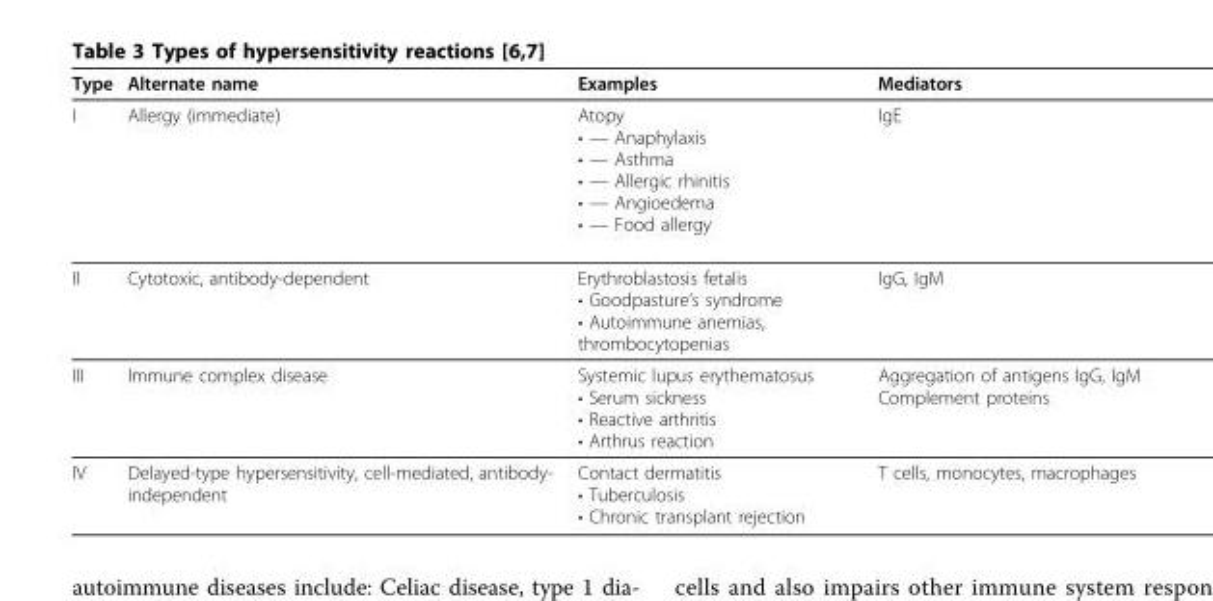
<table><thead><tr><td>Type</td><td>Alternate name</td><td>Examples</td><td>Mediators</td></tr></thead><tbody><tr><td>I</td><td>Allergy (immediate)</td><td>Atopy • — Anaphylaxis • — Asthma • — Allergic rhinitis • — Angioedema • — Food allergy</td><td>IgE</td></tr><tr><td>II</td><td>Cytotoxic, antibody-dependent</td><td>Erythroblastosis fetalis • Goodpasture’s syndrome • Autoimmune anemias, thrombocytopenias</td><td>IgG, IgM</td></tr><tr><td>III</td><td>Immune complex disease</td><td>Systemic lupus erythematosus • Serum sickness • Reactive arthritis • Arthrus reaction</td><td>Aggregation of antigens IgG, IgM Complement proteins</td></tr><tr><td>IV</td><td>Delayed-type hypersensitivity, cell-mediated, antibody- independent</td><td>Contact dermatitis • Tuberculosis • Chronic transplant rejection</td><td>T cells, monocytes, macrophages</td></tr></tbody></table>